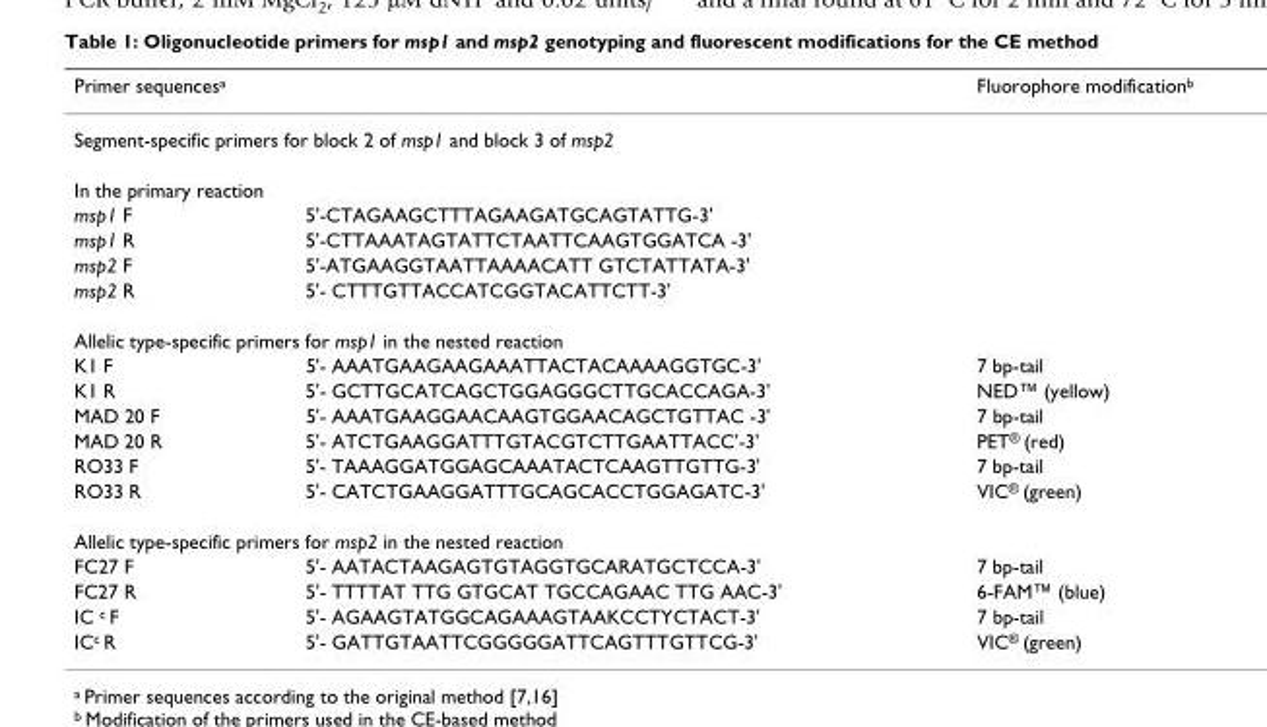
<table><thead><tr><td>Primer sequences<sup>a</sup></td><td></td><td>Fluorophore modification<sup>b</sup></td></tr></thead><tbody><tr><td colspan="3">Segment-specific primers for block 2 of msp1 and block 3 of msp2</td></tr><tr><td colspan="3">In the primary reaction</td></tr><tr><td>msp1 F</td><td>5&#x27;-CTAGAAGCTTTAGAAGATGCAGTATTG-3&#x27;</td><td></td></tr><tr><td>msp1 R</td><td>5&#x27;-CTTAAATAGTATTCTAATTCAAGTGGATCA -3&#x27;</td><td></td></tr><tr><td>msp2 F</td><td>5&#x27;-ATGAAGGTAATTAAAACATT GTCTATTATA-3&#x27;</td><td></td></tr><tr><td>msp2 R</td><td>5&#x27;- CTTTGTTACCATCGGTACATTCTT-3&#x27;</td><td></td></tr><tr><td colspan="3">Allelic type-specific primers for msp1 in the nested reaction</td></tr><tr><td>K1 F</td><td>5&#x27;- AAATGAAGAAGAAATTACTACAAAAGGTGC-3&#x27;</td><td>7 bp-tail</td></tr><tr><td>K1 R</td><td>5&#x27;- GCTTGCATCAGCTGGAGGGCTTGCACCAGA-3&#x27;</td><td>NED™ (yellow)</td></tr><tr><td>MAD 20 F</td><td>5&#x27;- AAATGAAGGAACAAGTGGAACAGCTGTTAC -3&#x27;</td><td>7 bp-tail</td></tr><tr><td>MAD 20 R</td><td>5&#x27;- ATCTGAAGGATTTGTACGTCTTGAATTACC&#x27;-3&#x27;</td><td>PET<sup>®</sup> (red)</td></tr><tr><td>RO33 F</td><td>5&#x27;- TAAAGGATGGAGCAAATACTCAAGTTGTTG-3&#x27;</td><td>7 bp-tail</td></tr><tr><td>RO33 R</td><td>5&#x27;- CATCTGAAGGATTTGCAGCACCTGGAGATC-3&#x27;</td><td>VIC<sup>®</sup> (green)</td></tr><tr><td colspan="3">Allelic type-specific primers for msp2 in the nested reaction</td></tr><tr><td>FC27 F</td><td>5&#x27;- AATACTAAGAGTGTAGGTGCARATGCTCCA-3&#x27;</td><td>7 bp-tail</td></tr><tr><td>FC27 R</td><td>5&#x27;- TTTTAT TTG GTGCAT TGCCAGAAC TTG AAC-3&#x27;</td><td>6-FAM™ (blue)</td></tr><tr><td>IC <sup>c</sup> F</td><td>5&#x27;- AGAAGTATGGCAGAAAGTAAKCCTYCTACT-3&#x27;</td><td>7 bp-tail</td></tr><tr><td>IC<sup>c</sup> R</td><td>5&#x27;- GATTGTAATTCGGGGGATTCAGTTTGTTCG-3&#x27;</td><td>VIC<sup>®</sup> (green)</td></tr></tbody></table>